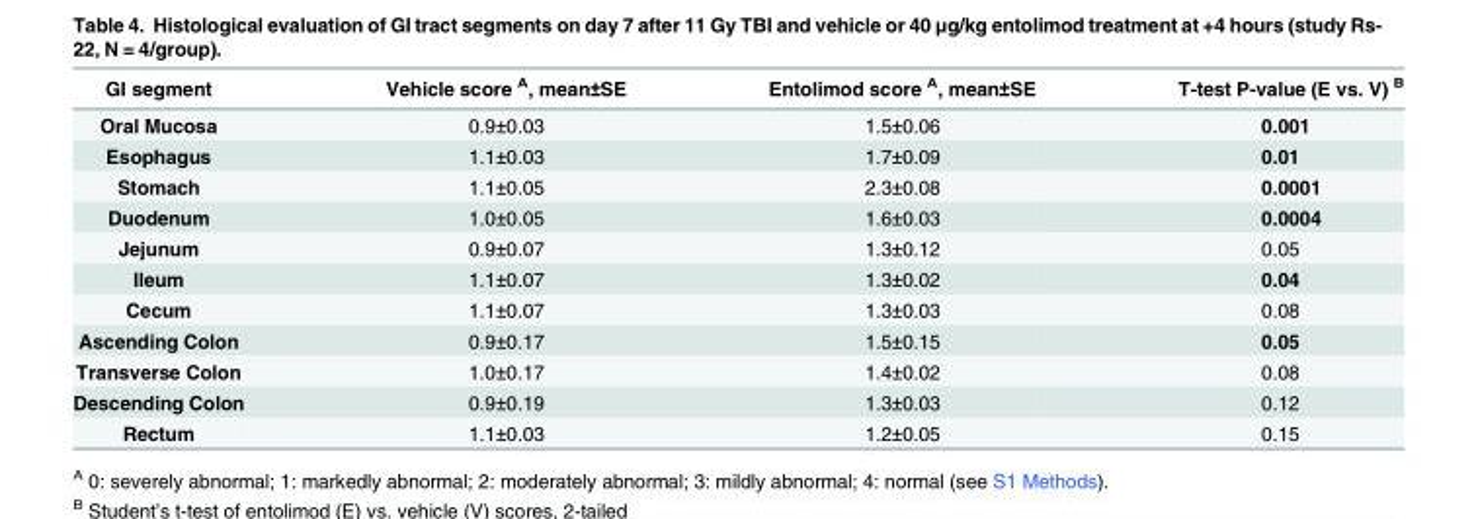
<table><thead><tr><td>GI segment</td><td>Vehicle score <sup>A</sup>, mean±SE</td><td>Entolimod score <sup>A</sup>, mean±SE</td><td>T-test P-value (E vs. V) <sup>B</sup></td></tr></thead><tbody><tr><td>Oral Mucosa</td><td>0.9±0.03</td><td>1.5±0.06</td><td>0.001</td></tr><tr><td>Esophagus</td><td>1.1±0.03</td><td>1.7±0.09</td><td>0.01</td></tr><tr><td>Stomach</td><td>1.1±0.05</td><td>2.3±0.08</td><td>0.0001</td></tr><tr><td>Duodenum</td><td>1.0±0.05</td><td>1.6±0.03</td><td>0.0004</td></tr><tr><td>Jejunum</td><td>0.9±0.07</td><td>1.3±0.12</td><td>0.05</td></tr><tr><td>Ileum</td><td>1.1±0.07</td><td>1.3±0.02</td><td>0.04</td></tr><tr><td>Cecum</td><td>1.1±0.07</td><td>1.3±0.03</td><td>0.08</td></tr><tr><td>Ascending Colon</td><td>0.9±0.17</td><td>1.5±0.15</td><td>0.05</td></tr><tr><td>Transverse Colon</td><td>1.0±0.17</td><td>1.4±0.02</td><td>0.08</td></tr><tr><td>Descending Colon</td><td>0.9±0.19</td><td>1.3±0.03</td><td>0.12</td></tr><tr><td>Rectum</td><td>1.1±0.03</td><td>1.2±0.05</td><td>0.15</td></tr></tbody></table>